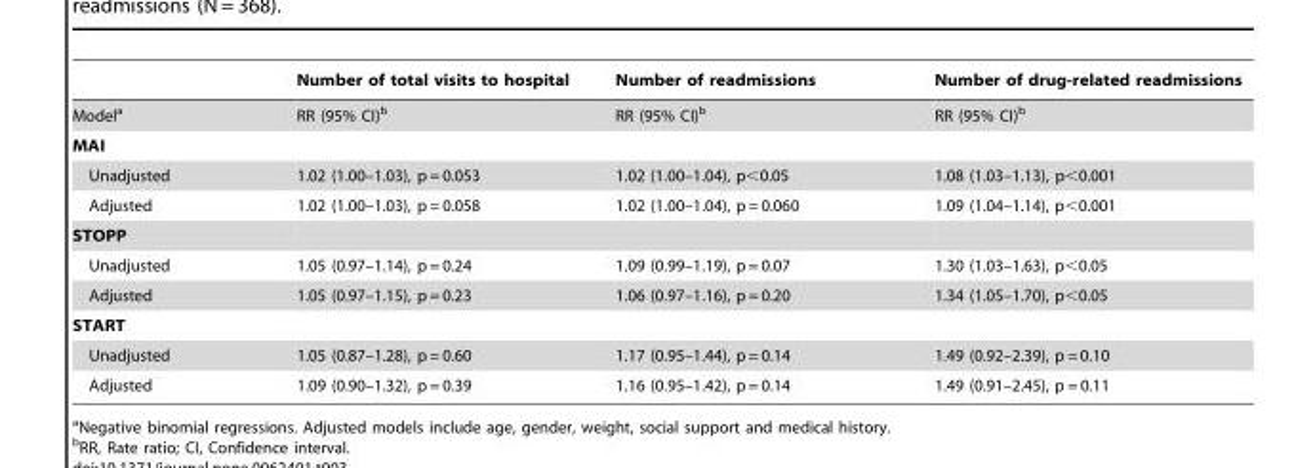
<table><thead><tr><td></td><td>Number of total visits to hospital</td><td>Number of readmissions</td><td>Number of drug-related readmissions</td></tr></thead><tbody><tr><td>Model<sup>a</sup></td><td>RR (95% CI)<sup>b</sup></td><td>RR (95% CI)<sup>b</sup></td><td>RR (95% CI)<sup>b</sup></td></tr><tr><td colspan="4">MAI</td></tr><tr><td>Unadjusted</td><td>1.02 (1.00–1.03), p = 0.053</td><td>1.02 (1.00–1.04), p&lt;0.05</td><td>1.08 (1.03–1.13), p&lt;0.001</td></tr><tr><td>Adjusted</td><td>1.02 (1.00–1.03), p = 0.058</td><td>1.02 (1.00–1.04), p = 0.060</td><td>1.09 (1.04–1.14), p&lt;0.001</td></tr><tr><td colspan="4">STOPP</td></tr><tr><td>Unadjusted</td><td>1.05 (0.97–1.14), p = 0.24</td><td>1.09 (0.99–1.19), p = 0.07</td><td>1.30 (1.03–1.63), p&lt;0.05</td></tr><tr><td>Adjusted</td><td>1.05 (0.97–1.15), p = 0.23</td><td>1.06 (0.97–1.16), p = 0.20</td><td>1.34 (1.05–1.70), p&lt;0.05</td></tr><tr><td colspan="4">START</td></tr><tr><td>Unadjusted</td><td>1.05 (0.87–1.28), p = 0.60</td><td>1.17 (0.95–1.44), p = 0.14</td><td>1.49 (0.92–2.39), p = 0.10</td></tr><tr><td>Adjusted</td><td>1.09 (0.90–1.32), p = 0.39</td><td>1.16 (0.95–1.42), p = 0.14</td><td>1.49 (0.91–2.45), p = 0.11</td></tr></tbody></table>